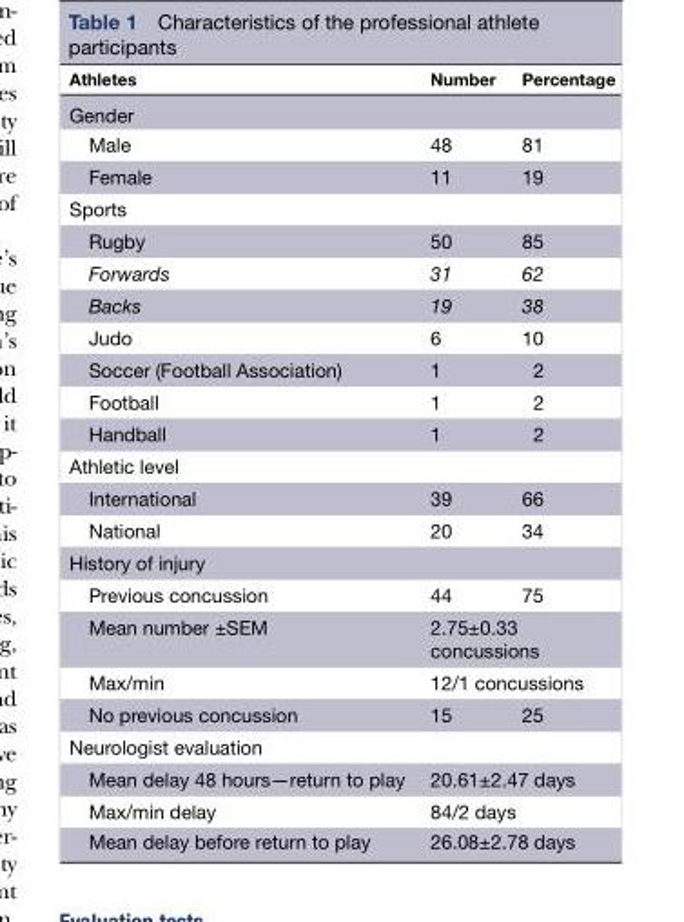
<table><thead><tr><td>Athletes</td><td>Number</td><td>Percentage</td></tr></thead><tbody><tr><td colspan="3">Gender</td></tr><tr><td>Male</td><td>48</td><td>81</td></tr><tr><td>Female</td><td>11</td><td>19</td></tr><tr><td colspan="3">Sports</td></tr><tr><td>Rugby</td><td>50</td><td>85</td></tr><tr><td>Forwards</td><td>31</td><td>62</td></tr><tr><td>Backs</td><td>19</td><td>38</td></tr><tr><td>Judo</td><td>6</td><td>10</td></tr><tr><td>Soccer (Football Association)</td><td>1</td><td>2</td></tr><tr><td>Football</td><td>1</td><td>2</td></tr><tr><td>Handball</td><td>1</td><td>2</td></tr><tr><td colspan="3">Athletic level</td></tr><tr><td>International</td><td>39</td><td>66</td></tr><tr><td>National</td><td>20</td><td>34</td></tr><tr><td colspan="3">History of injury</td></tr><tr><td>Previous concussion</td><td>44</td><td>75</td></tr><tr><td>Mean number ±SEM</td><td colspan="2">2.75±0.33 concussions</td></tr><tr><td>Max/min</td><td colspan="2">12/1 concussions</td></tr><tr><td>No previous concussion</td><td>15</td><td>25</td></tr><tr><td colspan="3">Neurologist evaluation</td></tr><tr><td>Mean delay 48 hours—return to play</td><td colspan="2">20.61±2.47 days</td></tr><tr><td>Max/min delay</td><td colspan="2">84/2 days</td></tr><tr><td>Mean delay before return to play</td><td colspan="2">26.08±2.78 days</td></tr></tbody></table>